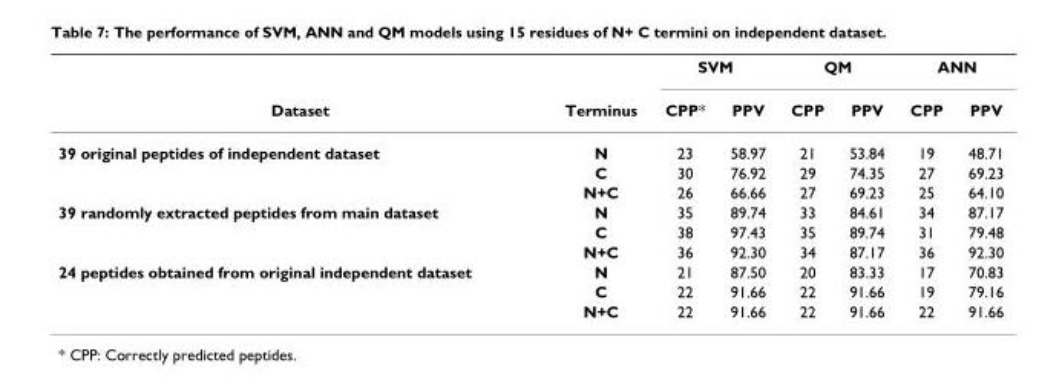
<table><thead><tr><td rowspan="2">Dataset</td><td rowspan="2">Terminus</td><td colspan="2">SVM</td><td colspan="2">QM</td><td colspan="2">ANN</td></tr><tr><td>CPP*</td><td>PPV</td><td>CPP</td><td>PPV</td><td>CPP</td><td>PPV</td></tr></thead><tbody><tr><td rowspan="3">39 original peptides of independent dataset</td><td>N</td><td>23</td><td>58.97</td><td>21</td><td>53.84</td><td>19</td><td>48.71</td></tr><tr><td>C</td><td>30</td><td>76.92</td><td>29</td><td>74.35</td><td>27</td><td>69.23</td></tr><tr><td>N+C</td><td>26</td><td>66.66</td><td>27</td><td>69.23</td><td>25</td><td>64.10</td></tr><tr><td rowspan="3">39 randomly extracted peptides from main dataset</td><td>N</td><td>35</td><td>89.74</td><td>33</td><td>84.61</td><td>34</td><td>87.17</td></tr><tr><td>C</td><td>38</td><td>97.43</td><td>35</td><td>89.74</td><td>31</td><td>79.48</td></tr><tr><td>N+C</td><td>36</td><td>92.30</td><td>34</td><td>87.17</td><td>36</td><td>92.30</td></tr><tr><td rowspan="3">24 peptides obtained from original independent dataset</td><td>N</td><td>21</td><td>87.50</td><td>20</td><td>83.33</td><td>17</td><td>70.83</td></tr><tr><td>C</td><td>22</td><td>91.66</td><td>22</td><td>91.66</td><td>19</td><td>79.16</td></tr><tr><td>N+C</td><td>22</td><td>91.66</td><td>22</td><td>91.66</td><td>22</td><td>91.66</td></tr></tbody></table>